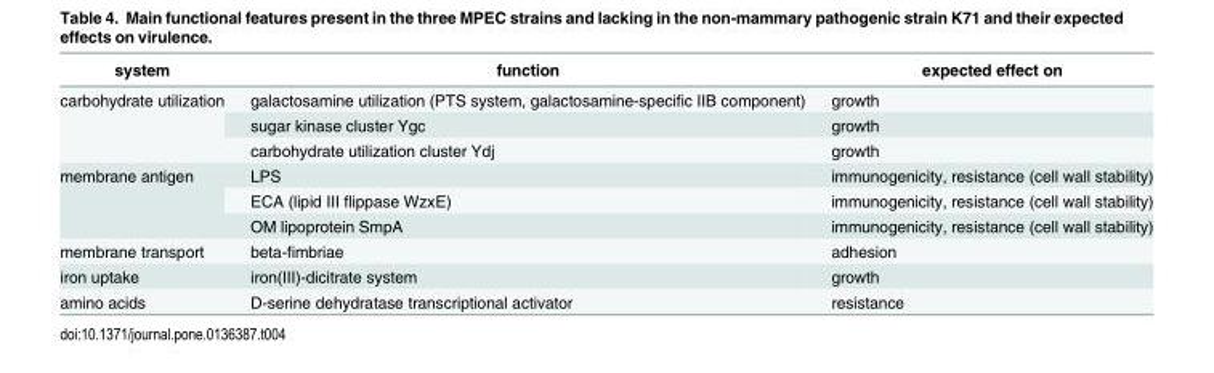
<table><thead><tr><td>system</td><td>function</td><td>expected effect on</td></tr></thead><tbody><tr><td rowspan="3">carbohydrate utilization</td><td>galactosamine utilization (PTS system, galactosamine-specific IIB component)</td><td>growth</td></tr><tr><td>sugar kinase cluster Ygc</td><td>growth</td></tr><tr><td>carbohydrate utilization cluster Ydj</td><td>growth</td></tr><tr><td rowspan="3">membrane antigen</td><td>LPS</td><td>immunogenicity, resistance (cell wall stability)</td></tr><tr><td>ECA (lipid III flippase WzxE)</td><td>immunogenicity, resistance (cell wall stability)</td></tr><tr><td>OM lipoprotein SmpA</td><td>immunogenicity, resistance (cell wall stability)</td></tr><tr><td>membrane transport</td><td>beta-fimbriae</td><td>adhesion</td></tr><tr><td>iron uptake</td><td>iron(III)-dicitrate system</td><td>growth</td></tr><tr><td>amino acids</td><td>D-serine dehydratase transcriptional activator</td><td>resistance</td></tr></tbody></table>